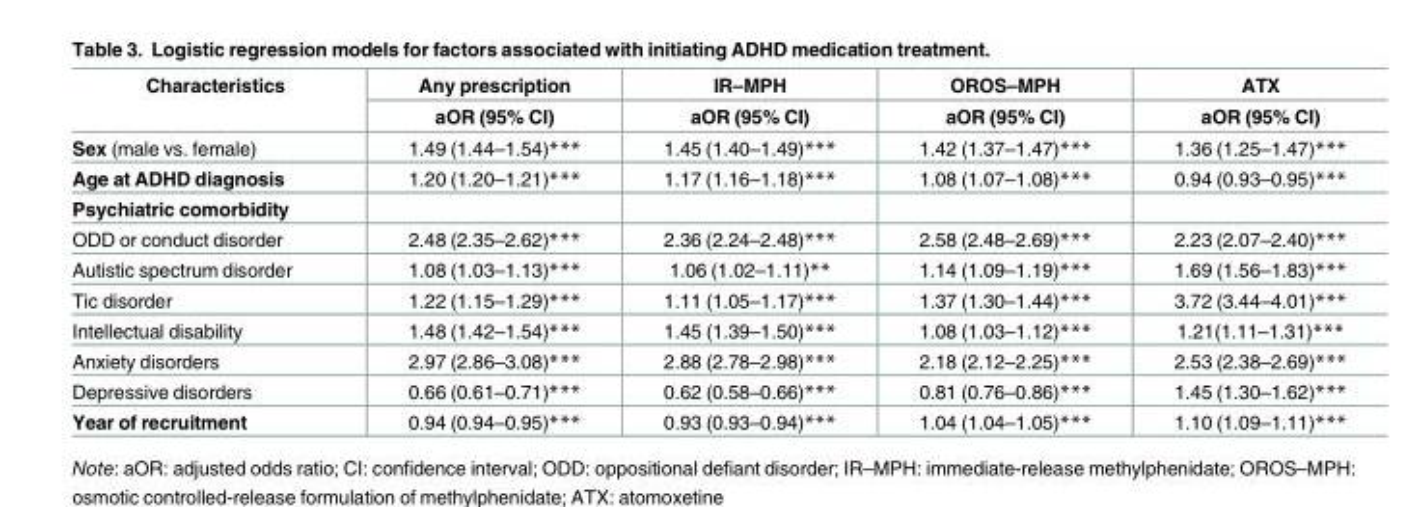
<table><thead><tr><td rowspan="2">Characteristics</td><td rowspan="2">Any prescription aOR (95% CI)</td><td rowspan="2">IR–MPH aOR (95% CI)</td><td rowspan="2">OROS–MPH aOR (95% CI)</td><td rowspan="2">ATX aOR (95% CI)</td></tr><tr></tr></thead><tbody><tr><td>Sex (male vs. female)</td><td>1.49 (1.44–1.54)***</td><td>1.45 (1.40–1.49)***</td><td>1.42 (1.37–1.47)***</td><td>1.36 (1.25–1.47)***</td></tr><tr><td>Age at ADHD diagnosis</td><td>1.20 (1.20–1.21)***</td><td>1.17 (1.16–1.18)***</td><td>1.08 (1.07–1.08)***</td><td>0.94 (0.93–0.95)***</td></tr><tr><td colspan="5">Psychiatric comorbidity</td></tr><tr><td>ODD or conduct disorder</td><td>2.48 (2.35–2.62)***</td><td>2.36 (2.24–2.48)***</td><td>2.58 (2.48–2.69)***</td><td>2.23 (2.07–2.40)***</td></tr><tr><td>Autistic spectrum disorder</td><td>1.08 (1.03–1.13)***</td><td>1.06 (1.02–1.11)**</td><td>1.14 (1.09–1.19)***</td><td>1.69 (1.56–1.83)***</td></tr><tr><td>Tic disorder</td><td>1.22 (1.15–1.29)***</td><td>1.11 (1.05–1.17)***</td><td>1.37 (1.30–1.44)***</td><td>3.72 (3.44–4.01)***</td></tr><tr><td>Intellectual disability</td><td>1.48 (1.42–1.54)***</td><td>1.45 (1.39–1.50)***</td><td>1.08 (1.03–1.12)***</td><td>1.21(1.11–1.31)***</td></tr><tr><td>Anxiety disorders</td><td>2.97 (2.86–3.08)***</td><td>2.88 (2.78–2.98)***</td><td>2.18 (2.12–2.25)***</td><td>2.53 (2.38–2.69)***</td></tr><tr><td>Depressive disorders</td><td>0.66 (0.61–0.71)***</td><td>0.62 (0.58–0.66)***</td><td>0.81 (0.76–0.86)***</td><td>1.45 (1.30–1.62)***</td></tr><tr><td>Year of recruitment</td><td>0.94 (0.94–0.95)***</td><td>0.93 (0.93–0.94)***</td><td>1.04 (1.04–1.05)***</td><td>1.10 (1.09–1.11)***</td></tr></tbody></table>